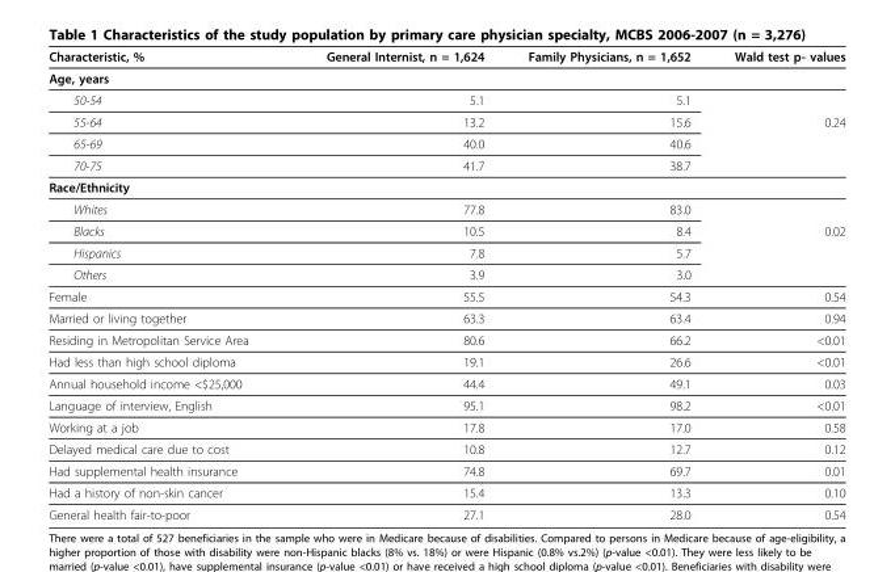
<table><thead><tr><td>Characteristic, %</td><td>General Internist, n = 1,624</td><td>Family Physicians, n = 1,652</td><td>Wald test p- values</td></tr></thead><tbody><tr><td colspan="4">Age, years</td></tr><tr><td>50-54</td><td>5.1</td><td>5.1</td><td></td></tr><tr><td>55-64</td><td>13.2</td><td>15.6</td><td>0.24</td></tr><tr><td>65-69</td><td>40.0</td><td>40.6</td><td></td></tr><tr><td>70-75</td><td>41.7</td><td>38.7</td><td></td></tr><tr><td colspan="4">Race/Ethnicity</td></tr><tr><td>Whites</td><td>77.8</td><td>83.0</td><td></td></tr><tr><td>Blacks</td><td>10.5</td><td>8.4</td><td>0.02</td></tr><tr><td>Hispanics</td><td>7.8</td><td>5.7</td><td></td></tr><tr><td>Others</td><td>3.9</td><td>3.0</td><td></td></tr><tr><td>Female</td><td>55.5</td><td>54.3</td><td>0.54</td></tr><tr><td>Married or living together</td><td>63.3</td><td>63.4</td><td>0.94</td></tr><tr><td>Residing in Metropolitan Service Area</td><td>80.6</td><td>66.2</td><td>&lt;0.01</td></tr><tr><td>Had less than high school diploma</td><td>19.1</td><td>26.6</td><td>&lt;0.01</td></tr><tr><td>Annual household income &lt;$25,000</td><td>44.4</td><td>49.1</td><td>0.03</td></tr><tr><td>Language of interview, English</td><td>95.1</td><td>98.2</td><td>&lt;0.01</td></tr><tr><td>Working at a job</td><td>17.8</td><td>17.0</td><td>0.58</td></tr><tr><td>Delayed medical care due to cost</td><td>10.8</td><td>12.7</td><td>0.12</td></tr><tr><td>Had supplemental health insurance</td><td>74.8</td><td>69.7</td><td>0.01</td></tr><tr><td>Had a history of non-skin cancer</td><td>15.4</td><td>13.3</td><td>0.10</td></tr><tr><td>General health fair-to-poor</td><td>27.1</td><td>28.0</td><td>0.54</td></tr></tbody></table>